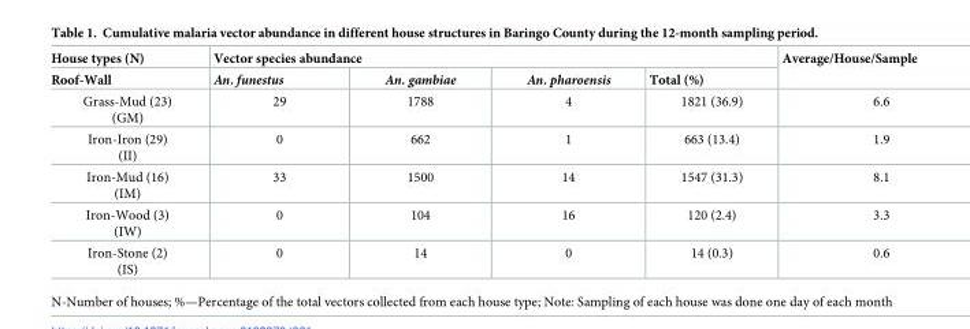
<table><thead><tr><td rowspan="2">House types (N) Roof-Wall</td><td colspan="4">Vector species abundance</td><td rowspan="2">Average/House/Sample</td></tr><tr><td>An. funestus</td><td>An. gambiae</td><td>An. pharoensis</td><td>Total (%)</td></tr></thead><tbody><tr><td>Grass-Mud (23) (GM)</td><td>29</td><td>1788</td><td>4</td><td>1821 (36.9)</td><td>6.6</td></tr><tr><td>Iron-Iron (29) (II)</td><td>0</td><td>662</td><td>1</td><td>663 (13.4)</td><td>1.9</td></tr><tr><td>Iron-Mud (16) (IM)</td><td>33</td><td>1500</td><td>14</td><td>1547 (31.3)</td><td>8.1</td></tr><tr><td>Iron-Wood (3) (IW)</td><td>0</td><td>104</td><td>16</td><td>120 (2.4)</td><td>3.3</td></tr><tr><td>Iron-Stone (2) (IS)</td><td>0</td><td>14</td><td>0</td><td>14 (0.3)</td><td>0.6</td></tr></tbody></table>